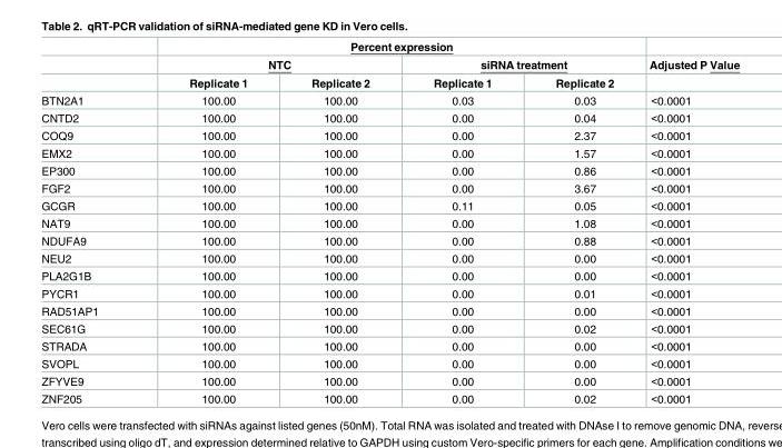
<table><thead><tr><td rowspan="3"></td><td colspan="4">Percent expression</td><td rowspan="3">Adjusted P Value</td></tr><tr><td colspan="2">NTC</td><td colspan="2">siRNA treatment</td></tr><tr><td>Replicate 1</td><td>Replicate 2</td><td>Replicate 1</td><td>Replicate 2</td></tr></thead><tbody><tr><td>BTN2A1</td><td>100.00</td><td>100.00</td><td>0.03</td><td>0.03</td><td>&lt;0.0001</td></tr><tr><td>CNTD2</td><td>100.00</td><td>100.00</td><td>0.00</td><td>0.04</td><td>&lt;0.0001</td></tr><tr><td>COQ9</td><td>100.00</td><td>100.00</td><td>0.00</td><td>2.37</td><td>&lt;0.0001</td></tr><tr><td>EMX2</td><td>100.00</td><td>100.00</td><td>0.00</td><td>1.57</td><td>&lt;0.0001</td></tr><tr><td>EP300</td><td>100.00</td><td>100.00</td><td>0.00</td><td>0.86</td><td>&lt;0.0001</td></tr><tr><td>FGF2</td><td>100.00</td><td>100.00</td><td>0.00</td><td>3.67</td><td>&lt;0.0001</td></tr><tr><td>GCGR</td><td>100.00</td><td>100.00</td><td>0.11</td><td>0.05</td><td>&lt;0.0001</td></tr><tr><td>NAT9</td><td>100.00</td><td>100.00</td><td>0.00</td><td>1.08</td><td>&lt;0.0001</td></tr><tr><td>NDUFA9</td><td>100.00</td><td>100.00</td><td>0.00</td><td>0.88</td><td>&lt;0.0001</td></tr><tr><td>NEU2</td><td>100.00</td><td>100.00</td><td>0.00</td><td>0.00</td><td>&lt;0.0001</td></tr><tr><td>PLA2G1B</td><td>100.00</td><td>100.00</td><td>0.00</td><td>0.00</td><td>&lt;0.0001</td></tr><tr><td>PYCR1</td><td>100.00</td><td>100.00</td><td>0.00</td><td>0.01</td><td>&lt;0.0001</td></tr><tr><td>RAD51AP1</td><td>100.00</td><td>100.00</td><td>0.00</td><td>0.00</td><td>&lt;0.0001</td></tr><tr><td>SEC61G</td><td>100.00</td><td>100.00</td><td>0.00</td><td>0.02</td><td>&lt;0.0001</td></tr><tr><td>STRADA</td><td>100.00</td><td>100.00</td><td>0.00</td><td>0.00</td><td>&lt;0.0001</td></tr><tr><td>SVOPL</td><td>100.00</td><td>100.00</td><td>0.00</td><td>0.00</td><td>&lt;0.0001</td></tr><tr><td>ZFYVE9</td><td>100.00</td><td>100.00</td><td>0.00</td><td>0.00</td><td>&lt;0.0001</td></tr><tr><td>ZNF205</td><td>100.00</td><td>100.00</td><td>0.00</td><td>0.02</td><td>&lt;0.0001</td></tr></tbody></table>